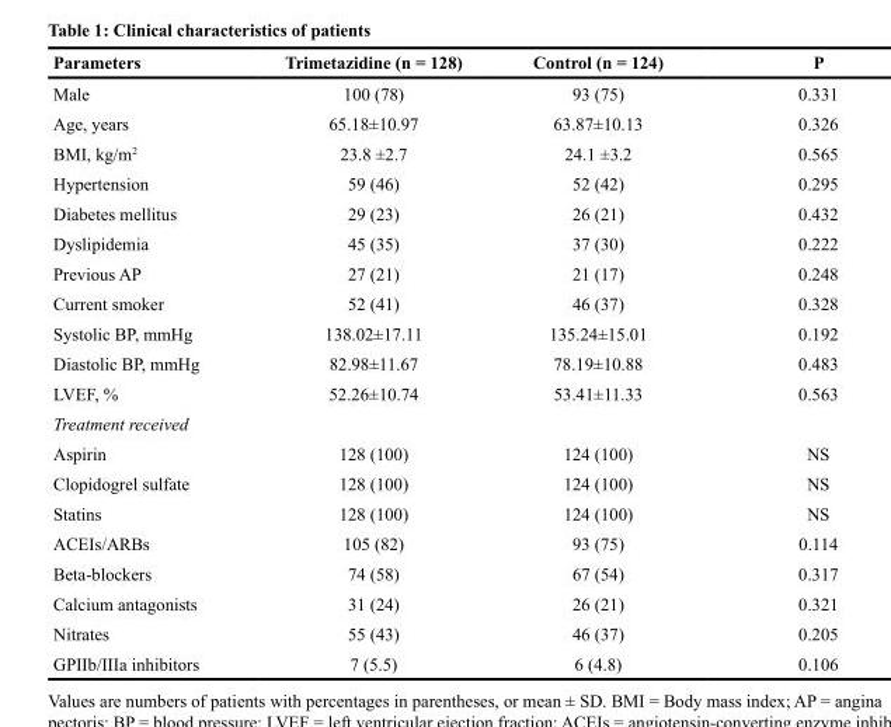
<table><thead><tr><td>Parameters</td><td>Trimetazidine (n = 128)</td><td>Control (n = 124)</td><td>P</td></tr></thead><tbody><tr><td>Male</td><td>100 (78)</td><td>93 (75)</td><td>0.331</td></tr><tr><td>Age, years</td><td>65.18±10.97</td><td>63.87±10.13</td><td>0.326</td></tr><tr><td>BMI, kg/m<sup>2</sup></td><td>23.8 ±2.7</td><td>24.1 ±3.2</td><td>0.565</td></tr><tr><td>Hypertension</td><td>59 (46)</td><td>52 (42)</td><td>0.295</td></tr><tr><td>Diabetes mellitus</td><td>29 (23)</td><td>26 (21)</td><td>0.432</td></tr><tr><td>Dyslipidemia</td><td>45 (35)</td><td>37 (30)</td><td>0.222</td></tr><tr><td>Previous AP</td><td>27 (21)</td><td>21 (17)</td><td>0.248</td></tr><tr><td>Current smoker</td><td>52 (41)</td><td>46 (37)</td><td>0.328</td></tr><tr><td>Systolic BP, mmHg</td><td>138.02±17.11</td><td>135.24±15.01</td><td>0.192</td></tr><tr><td>Diastolic BP, mmHg</td><td>82.98±11.67</td><td>78.19±10.88</td><td>0.483</td></tr><tr><td>LVEF, %</td><td>52.26±10.74</td><td>53.41±11.33</td><td>0.563</td></tr><tr><td colspan="4">Treatment received</td></tr><tr><td>Aspirin</td><td>128 (100)</td><td>124 (100)</td><td>NS</td></tr><tr><td>Clopidogrel sulfate</td><td>128 (100)</td><td>124 (100)</td><td>NS</td></tr><tr><td>Statins</td><td>128 (100)</td><td>124 (100)</td><td>NS</td></tr><tr><td>ACEIs/ARBs</td><td>105 (82)</td><td>93 (75)</td><td>0.114</td></tr><tr><td>Beta-blockers</td><td>74 (58)</td><td>67 (54)</td><td>0.317</td></tr><tr><td>Calcium antagonists</td><td>31 (24)</td><td>26 (21)</td><td>0.321</td></tr><tr><td>Nitrates</td><td>55 (43)</td><td>46 (37)</td><td>0.205</td></tr><tr><td>GPIIb/IIIa inhibitors</td><td>7 (5.5)</td><td>6 (4.8)</td><td>0.106</td></tr></tbody></table>